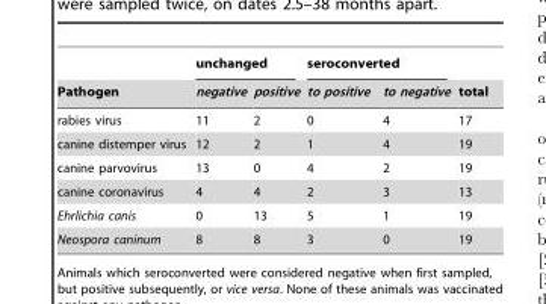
<table><thead><tr><td rowspan="2">Pathogen</td><td colspan="2">unchanged</td><td colspan="2">seroconverted</td><td rowspan="2">total</td></tr><tr><td>negative</td><td>positive</td><td>to positive</td><td>to negative</td></tr></thead><tbody><tr><td>rabies virus</td><td>11</td><td>2</td><td>0</td><td>4</td><td>17</td></tr><tr><td>canine distemper virus</td><td>12</td><td>2</td><td>1</td><td>4</td><td>19</td></tr><tr><td>canine parvovirus</td><td>13</td><td>0</td><td>4</td><td>2</td><td>19</td></tr><tr><td>canine coronavirus</td><td>4</td><td>4</td><td>2</td><td>3</td><td>13</td></tr><tr><td>Ehrlichia canis</td><td>0</td><td>13</td><td>5</td><td>1</td><td>19</td></tr><tr><td>Neospora caninum</td><td>8</td><td>8</td><td>3</td><td>0</td><td>19</td></tr></tbody></table>